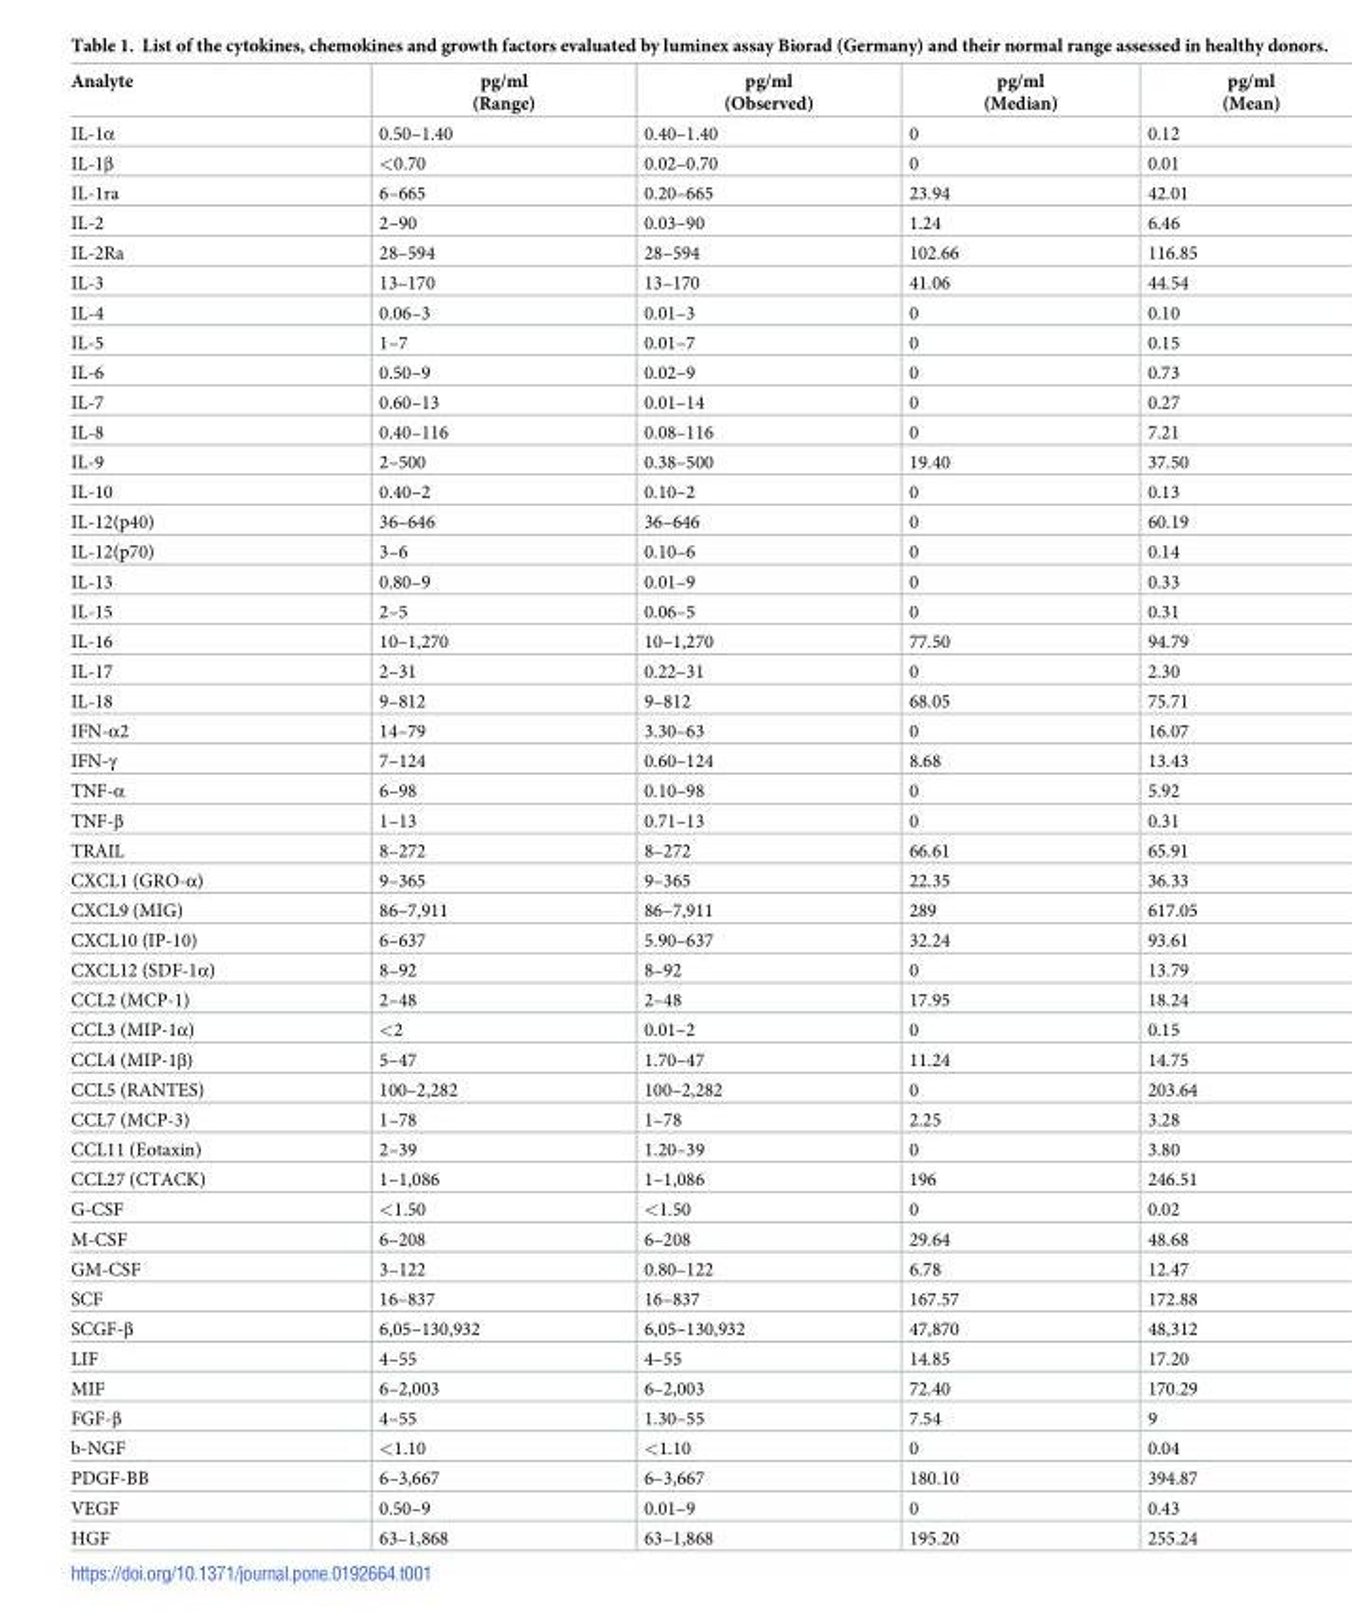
<table><thead><tr><td>Analyte</td><td>pg/ml (Range)</td><td>pg/ml (Observed)</td><td>pg/ml (Median)</td><td>pg/ml (Mean)</td></tr></thead><tbody><tr><td>IL-1α</td><td>0.50–1.40</td><td>0.40–1.40</td><td>0</td><td>0.12</td></tr><tr><td>IL-1β</td><td>&lt;0.70</td><td>0.02–0.70</td><td>0</td><td>0.01</td></tr><tr><td>IL-1ra</td><td>6–665</td><td>0.20–665</td><td>23.94</td><td>42.01</td></tr><tr><td>IL-2</td><td>2–90</td><td>0.03–90</td><td>1.24</td><td>6.46</td></tr><tr><td>IL-2Ra</td><td>28–594</td><td>28–594</td><td>102.66</td><td>116.85</td></tr><tr><td>IL-3</td><td>13–170</td><td>13–170</td><td>41.06</td><td>44.54</td></tr><tr><td>IL-4</td><td>0.06–3</td><td>0.01–3</td><td>0</td><td>0.10</td></tr><tr><td>IL-5</td><td>1–7</td><td>0.01–7</td><td>0</td><td>0.15</td></tr><tr><td>IL-6</td><td>0.50–9</td><td>0.02–9</td><td>0</td><td>0.73</td></tr><tr><td>IL-7</td><td>0.60–13</td><td>0.01–14</td><td>0</td><td>0.27</td></tr><tr><td>IL-8</td><td>0.40–116</td><td>0.08–116</td><td>0</td><td>7.21</td></tr><tr><td>IL-9</td><td>2–500</td><td>0.38–500</td><td>19.40</td><td>37.50</td></tr><tr><td>IL-10</td><td>0.40–2</td><td>0.10–2</td><td>0</td><td>0.13</td></tr><tr><td>IL-12(p40)</td><td>36–646</td><td>36–646</td><td>0</td><td>60.19</td></tr><tr><td>IL-12(p70)</td><td>3–6</td><td>0.10–6</td><td>0</td><td>0.14</td></tr><tr><td>IL-13</td><td>0.80–9</td><td>0.01–9</td><td>0</td><td>0.33</td></tr><tr><td>IL-15</td><td>2–5</td><td>0.06–5</td><td>0</td><td>0.31</td></tr><tr><td>IL-16</td><td>10–1,270</td><td>10–1,270</td><td>77.50</td><td>94.79</td></tr><tr><td>IL-17</td><td>2–31</td><td>0.22–31</td><td>0</td><td>2.30</td></tr><tr><td>IL-18</td><td>9–812</td><td>9–812</td><td>68.05</td><td>75.71</td></tr><tr><td>IFN-α2</td><td>14–79</td><td>3.30–63</td><td>0</td><td>16.07</td></tr><tr><td>IFN-γ</td><td>7–124</td><td>0.60–124</td><td>8.68</td><td>13.43</td></tr><tr><td>TNF-α</td><td>6–98</td><td>0.10–98</td><td>0</td><td>5.92</td></tr><tr><td>TNF-β</td><td>1–13</td><td>0.71–13</td><td>0</td><td>0.31</td></tr><tr><td>TRAIL</td><td>8–272</td><td>8–272</td><td>66.61</td><td>65.91</td></tr><tr><td>CXCL1 (GRO-α)</td><td>9–365</td><td>9–365</td><td>22.35</td><td>36.33</td></tr><tr><td>CXCL9 (MIG)</td><td>86–7,911</td><td>86–7,911</td><td>289</td><td>617.05</td></tr><tr><td>CXCL10 (IP-10)</td><td>6–637</td><td>5.90–637</td><td>32.24</td><td>93.61</td></tr><tr><td>CXCL12 (SDF-1α)</td><td>8–92</td><td>8–92</td><td>0</td><td>13.79</td></tr><tr><td>CCL2 (MCP-1)</td><td>2–48</td><td>2–48</td><td>17.95</td><td>18.24</td></tr><tr><td>CCL3 (MIP-1α)</td><td>&lt;2</td><td>0.01–2</td><td>0</td><td>0.15</td></tr><tr><td>CCL4 (MIP-1β)</td><td>5–47</td><td>1.70–47</td><td>11.24</td><td>14.75</td></tr><tr><td>CCL5 (RANTES)</td><td>100–2,282</td><td>100–2,282</td><td>0</td><td>203.64</td></tr><tr><td>CCL7 (MCP-3)</td><td>1–78</td><td>1–78</td><td>2.25</td><td>3.28</td></tr><tr><td>CCL11 (Eotaxin)</td><td>2–39</td><td>1.20–39</td><td>0</td><td>3.80</td></tr><tr><td>CCL27 (CTACK)</td><td>1–1,086</td><td>1–1,086</td><td>196</td><td>246.51</td></tr><tr><td>G-CSF</td><td>&lt;1.50</td><td>&lt;1.50</td><td>0</td><td>0.02</td></tr><tr><td>M-CSF</td><td>6–208</td><td>6–208</td><td>29.64</td><td>48.68</td></tr><tr><td>GM-CSF</td><td>3–122</td><td>0.80–122</td><td>6.78</td><td>12.47</td></tr><tr><td>SCF</td><td>16–837</td><td>16–837</td><td>167.57</td><td>172.88</td></tr><tr><td>SCGF-β</td><td>6,05–130,932</td><td>6,05–130,932</td><td>47,870</td><td>48,312</td></tr><tr><td>LIF</td><td>4–55</td><td>4–55</td><td>14.85</td><td>17.20</td></tr><tr><td>MIF</td><td>6–2,003</td><td>6–2,003</td><td>72.40</td><td>170.29</td></tr><tr><td>FGF-β</td><td>4–55</td><td>1.30–55</td><td>7.54</td><td>9</td></tr><tr><td>b-NGF</td><td>&lt;1.10</td><td>&lt;1.10</td><td>0</td><td>0.04</td></tr><tr><td>PDGF-BB</td><td>6–3,667</td><td>6–3,667</td><td>180.10</td><td>394.87</td></tr><tr><td>VEGF</td><td>0.50–9</td><td>0.01–9</td><td>0</td><td>0.43</td></tr><tr><td>HGF</td><td>63–1,868</td><td>63–1,868</td><td>195.20</td><td>255.24</td></tr></tbody></table>